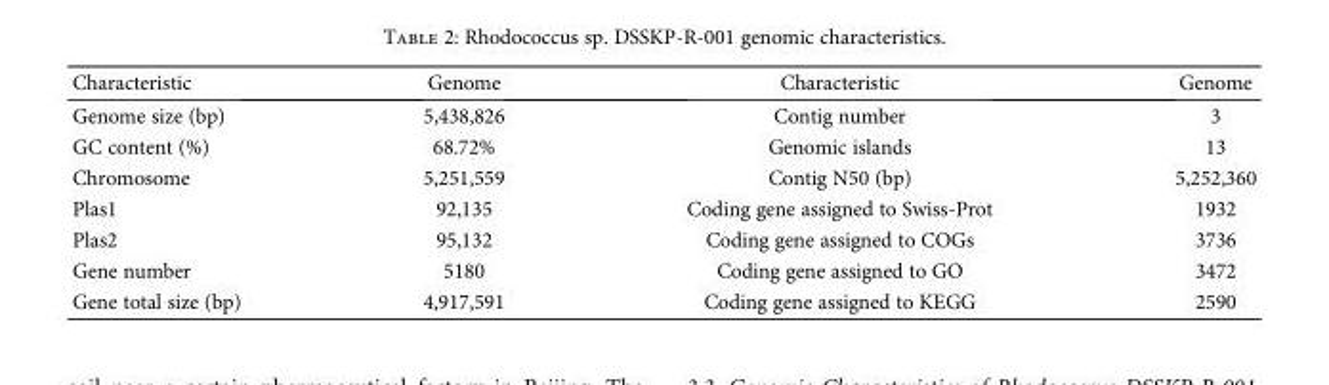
<table><thead><tr><td>Characteristic</td><td>Genome</td><td>Characteristic</td><td>Genome</td></tr></thead><tbody><tr><td>Genome size (bp)</td><td>5,438,826</td><td>Contig number</td><td>3</td></tr><tr><td>GC content (%)</td><td>68.72%</td><td>Genomic islands</td><td>13</td></tr><tr><td>Chromosome</td><td>5,251,559</td><td>Contig N50 (bp)</td><td>5,252,360</td></tr><tr><td>Plas1</td><td>92,135</td><td>Coding gene assigned to Swiss-Prot</td><td>1932</td></tr><tr><td>Plas2</td><td>95,132</td><td>Coding gene assigned to COGs</td><td>3736</td></tr><tr><td>Gene number</td><td>5180</td><td>Coding gene assigned to GO</td><td>3472</td></tr><tr><td>Gene total size (bp)</td><td>4,917,591</td><td>Coding gene assigned to KEGG</td><td>2590</td></tr></tbody></table>